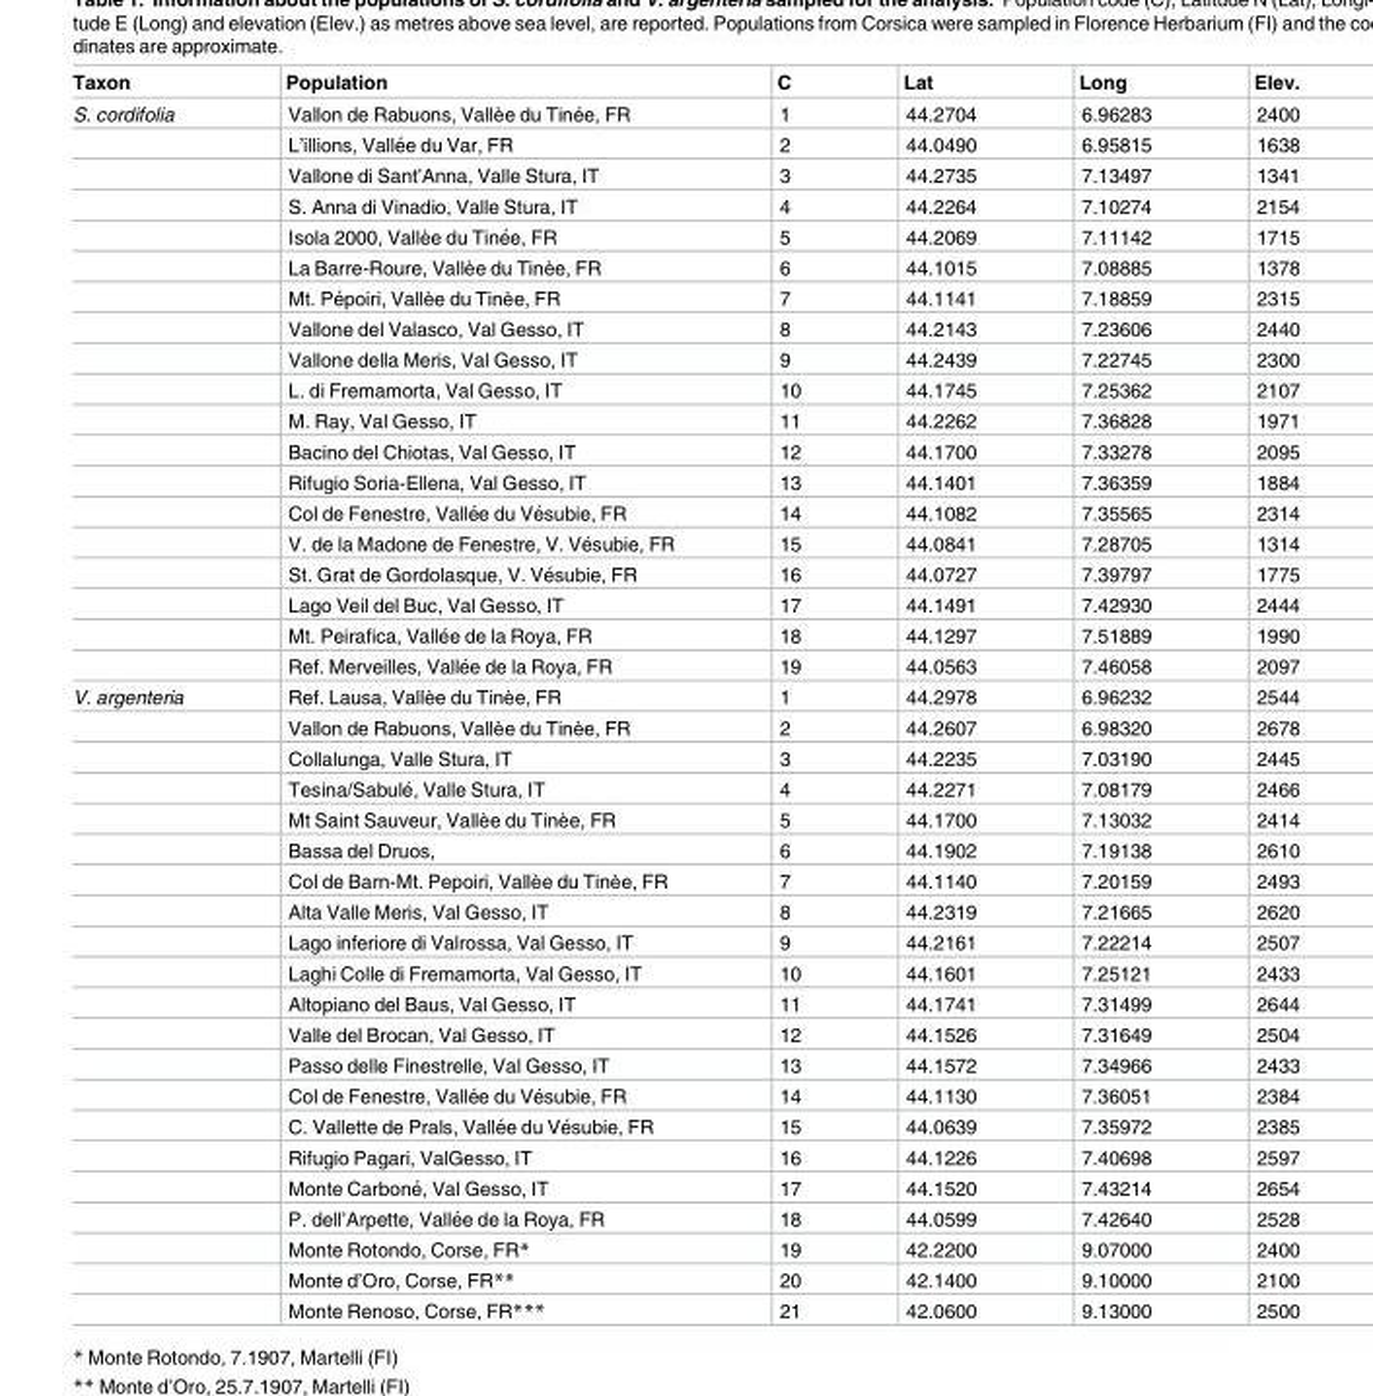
<table><thead><tr><td>Taxon</td><td>Population</td><td>C</td><td>Lat</td><td>Long</td><td>Elev.</td></tr></thead><tbody><tr><td rowspan="19">S. cordifolia</td><td>Vallon de Rabuons, Vallèe du Tine´e, FR</td><td>1</td><td>44.2704</td><td>6.96283</td><td>2400</td></tr><tr><td>L’illions, Valle´e du Var, FR</td><td>2</td><td>44.0490</td><td>6.95815</td><td>1638</td></tr><tr><td>Vallone di Sant’Anna, Valle Stura, IT</td><td>3</td><td>44.2735</td><td>7.13497</td><td>1341</td></tr><tr><td>S. Anna di Vinadio, Valle Stura, IT</td><td>4</td><td>44.2264</td><td>7.10274</td><td>2154</td></tr><tr><td>Isola 2000, Vallèe du Tine´e, FR</td><td>5</td><td>44.2069</td><td>7.11142</td><td>1715</td></tr><tr><td>La Barre-Roure, Vallèe du Tinèe, FR</td><td>6</td><td>44.1015</td><td>7.08885</td><td>1378</td></tr><tr><td>Mt. Pe´poiri, Vallèe du Tinèe, FR</td><td>7</td><td>44.1141</td><td>7.18859</td><td>2315</td></tr><tr><td>Vallone del Valasco, Val Gesso, IT</td><td>8</td><td>44.2143</td><td>7.23606</td><td>2440</td></tr><tr><td>Vallone della Meris, Val Gesso, IT</td><td>9</td><td>44.2439</td><td>7.22745</td><td>2300</td></tr><tr><td>L. di Fremamorta, Val Gesso, IT</td><td>10</td><td>44.1745</td><td>7.25362</td><td>2107</td></tr><tr><td>M. Ray, Val Gesso, IT</td><td>11</td><td>44.2262</td><td>7.36828</td><td>1971</td></tr><tr><td>Bacino del Chiotas, Val Gesso, IT</td><td>12</td><td>44.1700</td><td>7.33278</td><td>2095</td></tr><tr><td>Rifugio Soria-Ellena, Val Gesso, IT</td><td>13</td><td>44.1401</td><td>7.36359</td><td>1884</td></tr><tr><td>Col de Fenestre, Valle´e du Ve´subie, FR</td><td>14</td><td>44.1082</td><td>7.35565</td><td>2314</td></tr><tr><td>V. de la Madone de Fenestre, V. Ve´subie, FR</td><td>15</td><td>44.0841</td><td>7.28705</td><td>1314</td></tr><tr><td>St. Grat de Gordolasque, V. Ve´subie, FR</td><td>16</td><td>44.0727</td><td>7.39797</td><td>1775</td></tr><tr><td>Lago Veil del Buc, Val Gesso, IT</td><td>17</td><td>44.1491</td><td>7.42930</td><td>2444</td></tr><tr><td>Mt. Peirafica, Valle´e de la Roya, FR</td><td>18</td><td>44.1297</td><td>7.51889</td><td>1990</td></tr><tr><td>Ref. Merveilles, Valle´e de la Roya, FR</td><td>19</td><td>44.0563</td><td>7.46058</td><td>2097</td></tr><tr><td rowspan="21">V. argenteria</td><td>Ref. Lausa, Vallèe du Tinèe, FR</td><td>1</td><td>44.2978</td><td>6.96232</td><td>2544</td></tr><tr><td>Vallon de Rabuons, Vallèe du Tinèe, FR</td><td>2</td><td>44.2607</td><td>6.98320</td><td>2678</td></tr><tr><td>Collalunga, Valle Stura, IT</td><td>3</td><td>44.2235</td><td>7.03190</td><td>2445</td></tr><tr><td>Tesina/Sabule´, Valle Stura, IT</td><td>4</td><td>44.2271</td><td>7.08179</td><td>2466</td></tr><tr><td>Mt Saint Sauveur, Vallèe du Tinèe, FR</td><td>5</td><td>44.1700</td><td>7.13032</td><td>2414</td></tr><tr><td>Bassa del Druos,</td><td>6</td><td>44.1902</td><td>7.19138</td><td>2610</td></tr><tr><td>Col de Barn-Mt. Pepoiri, Vallèe du Tinèe, FR</td><td>7</td><td>44.1140</td><td>7.20159</td><td>2493</td></tr><tr><td>Alta Valle Meris, Val Gesso, IT</td><td>8</td><td>44.2319</td><td>7.21665</td><td>2620</td></tr><tr><td>Lago inferiore di Valrossa, Val Gesso, IT</td><td>9</td><td>44.2161</td><td>7.22214</td><td>2507</td></tr><tr><td>Laghi Colle di Fremamorta, Val Gesso, IT</td><td>10</td><td>44.1601</td><td>7.25121</td><td>2433</td></tr><tr><td>Altopiano del Baus, Val Gesso, IT</td><td>11</td><td>44.1741</td><td>7.31499</td><td>2644</td></tr><tr><td>Valle del Brocan, Val Gesso, IT</td><td>12</td><td>44.1526</td><td>7.31649</td><td>2504</td></tr><tr><td>Passo delle Finestrelle, Val Gesso, IT</td><td>13</td><td>44.1572</td><td>7.34966</td><td>2433</td></tr><tr><td>Col de Fenestre, Valle´e du Ve´subie, FR</td><td>14</td><td>44.1130</td><td>7.36051</td><td>2384</td></tr><tr><td>C. Vallette de Prals, Valle´e du Ve´subie, FR</td><td>15</td><td>44.0639</td><td>7.35972</td><td>2385</td></tr><tr><td>Rifugio Pagari, ValGesso, IT</td><td>16</td><td>44.1226</td><td>7.40698</td><td>2597</td></tr><tr><td>Monte Carbone´, Val Gesso, IT</td><td>17</td><td>44.1520</td><td>7.43214</td><td>2654</td></tr><tr><td>P. dell’Arpette, Valle´e de la Roya, FR</td><td>18</td><td>44.0599</td><td>7.42640</td><td>2528</td></tr><tr><td>Monte Rotondo, Corse, FR*</td><td>19</td><td>42.2200</td><td>9.07000</td><td>2400</td></tr><tr><td>Monte d’Oro, Corse, FR**</td><td>20</td><td>42.1400</td><td>9.10000</td><td>2100</td></tr><tr><td>Monte Renoso, Corse, FR***</td><td>21</td><td>42.0600</td><td>9.13000</td><td>2500</td></tr></tbody></table>